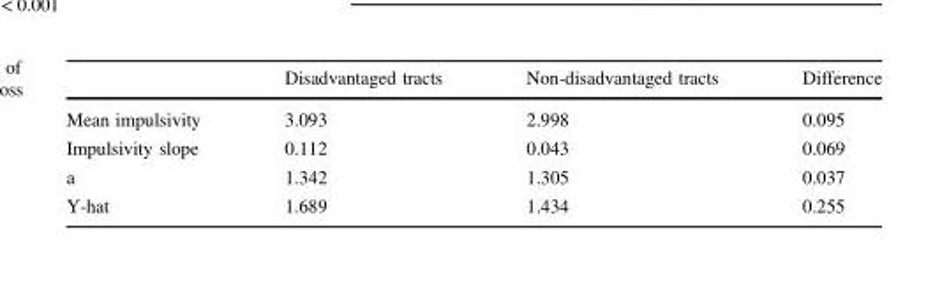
<table><thead><tr><td></td><td>Disadvantaged tracts</td><td>Non-disadvantaged tracts</td><td>Difference</td></tr></thead><tbody><tr><td>Mean impulsivity</td><td>3.093</td><td>2.998</td><td>0.095</td></tr><tr><td>Impulsivity slope</td><td>0.112</td><td>0.043</td><td>0.069</td></tr><tr><td>a</td><td>1.342</td><td>1.305</td><td>0.037</td></tr><tr><td>Y-hat</td><td>1.689</td><td>1.434</td><td>0.255</td></tr></tbody></table>